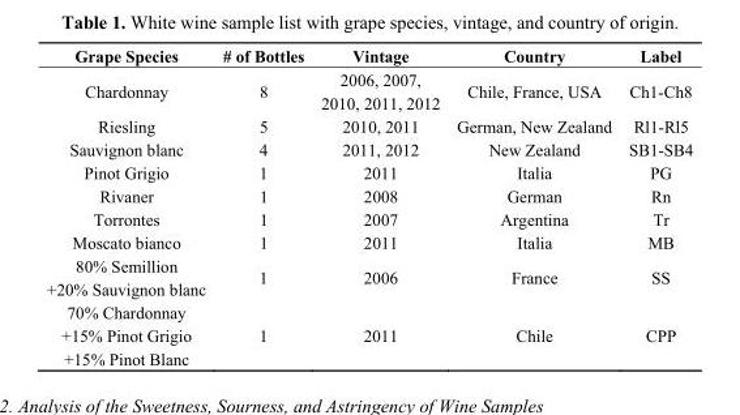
<table><thead><tr><td>Grape Species</td><td># of Bottles</td><td>Vintage</td><td>Country</td><td>Label</td></tr></thead><tbody><tr><td>Chardonnay</td><td>8</td><td>2006, 2007, 2010, 2011, 2012</td><td>Chile, France, USA</td><td>Ch1-Ch8</td></tr><tr><td>Riesling</td><td>5</td><td>2010, 2011</td><td>German, New Zealand</td><td>Rl1-Rl5</td></tr><tr><td>Sauvignon blanc</td><td>4</td><td>2011, 2012</td><td>New Zealand</td><td>SB1-SB4</td></tr><tr><td>Pinot Grigio</td><td>1</td><td>2011</td><td>Italia</td><td>PG</td></tr><tr><td>Rivaner</td><td>1</td><td>2008</td><td>German</td><td>Rn</td></tr><tr><td>Torrontes</td><td>1</td><td>2007</td><td>Argentina</td><td>Tr</td></tr><tr><td>Moscato bianco</td><td>1</td><td>2011</td><td>Italia</td><td>MB</td></tr><tr><td>80% Semillion +20% Sauvignon blanc</td><td>1</td><td>2006</td><td>France</td><td>SS</td></tr><tr><td>70% Chardonnay +15% Pinot Grigio +15% Pinot Blanc</td><td>1</td><td>2011</td><td>Chile</td><td>CPP</td></tr></tbody></table>